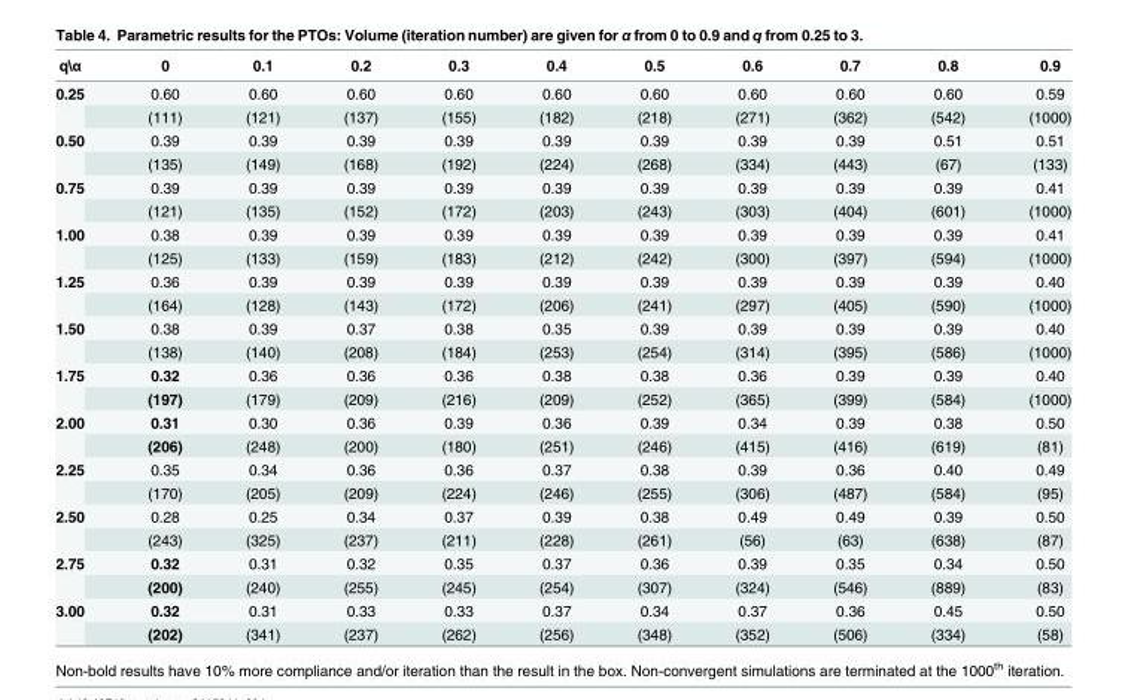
<table><thead><tr><td>q\\u03b1</td><td>0</td><td>0.1</td><td>0.2</td><td>0.3</td><td>0.4</td><td>0.5</td><td>0.6</td><td>0.7</td><td>0.8</td><td>0.9</td></tr></thead><tbody><tr><td rowspan="2">0.25</td><td>0.60</td><td>0.60</td><td>0.60</td><td>0.60</td><td>0.60</td><td>0.60</td><td>0.60</td><td>0.60</td><td>0.60</td><td>0.59</td></tr><tr><td>(111)</td><td>(121)</td><td>(137)</td><td>(155)</td><td>(182)</td><td>(218)</td><td>(271)</td><td>(362)</td><td>(542)</td><td>(1000)</td></tr><tr><td rowspan="2">0.50</td><td>0.39</td><td>0.39</td><td>0.39</td><td>0.39</td><td>0.39</td><td>0.39</td><td>0.39</td><td>0.39</td><td>0.51</td><td>0.51</td></tr><tr><td>(135)</td><td>(149)</td><td>(168)</td><td>(192)</td><td>(224)</td><td>(268)</td><td>(334)</td><td>(443)</td><td>(67)</td><td>(133)</td></tr><tr><td rowspan="2">0.75</td><td>0.39</td><td>0.39</td><td>0.39</td><td>0.39</td><td>0.39</td><td>0.39</td><td>0.39</td><td>0.39</td><td>0.39</td><td>0.41</td></tr><tr><td>(121)</td><td>(135)</td><td>(152)</td><td>(172)</td><td>(203)</td><td>(243)</td><td>(303)</td><td>(404)</td><td>(601)</td><td>(1000)</td></tr><tr><td rowspan="2">1.00</td><td>0.38</td><td>0.39</td><td>0.39</td><td>0.39</td><td>0.39</td><td>0.39</td><td>0.39</td><td>0.39</td><td>0.39</td><td>0.41</td></tr><tr><td>(125)</td><td>(133)</td><td>(159)</td><td>(183)</td><td>(212)</td><td>(242)</td><td>(300)</td><td>(397)</td><td>(594)</td><td>(1000)</td></tr><tr><td rowspan="2">1.25</td><td>0.36</td><td>0.39</td><td>0.39</td><td>0.39</td><td>0.39</td><td>0.39</td><td>0.39</td><td>0.39</td><td>0.39</td><td>0.40</td></tr><tr><td>(164)</td><td>(128)</td><td>(143)</td><td>(172)</td><td>(206)</td><td>(241)</td><td>(297)</td><td>(405)</td><td>(590)</td><td>(1000)</td></tr><tr><td rowspan="2">1.50</td><td>0.38</td><td>0.39</td><td>0.37</td><td>0.38</td><td>0.35</td><td>0.39</td><td>0.39</td><td>0.39</td><td>0.39</td><td>0.40</td></tr><tr><td>(138)</td><td>(140)</td><td>(208)</td><td>(184)</td><td>(253)</td><td>(254)</td><td>(314)</td><td>(395)</td><td>(586)</td><td>(1000)</td></tr><tr><td rowspan="2">1.75</td><td>0.32</td><td>0.36</td><td>0.36</td><td>0.36</td><td>0.38</td><td>0.38</td><td>0.36</td><td>0.39</td><td>0.39</td><td>0.40</td></tr><tr><td>(197)</td><td>(179)</td><td>(209)</td><td>(216)</td><td>(209)</td><td>(252)</td><td>(365)</td><td>(399)</td><td>(584)</td><td>(1000)</td></tr><tr><td rowspan="2">2.00</td><td>0.31</td><td>0.30</td><td>0.36</td><td>0.39</td><td>0.36</td><td>0.39</td><td>0.34</td><td>0.39</td><td>0.38</td><td>0.50</td></tr><tr><td>(206)</td><td>(248)</td><td>(200)</td><td>(180)</td><td>(251)</td><td>(246)</td><td>(415)</td><td>(416)</td><td>(619)</td><td>(81)</td></tr><tr><td rowspan="2">2.25</td><td>0.35</td><td>0.34</td><td>0.36</td><td>0.36</td><td>0.37</td><td>0.38</td><td>0.39</td><td>0.36</td><td>0.40</td><td>0.49</td></tr><tr><td>(170)</td><td>(205)</td><td>(209)</td><td>(224)</td><td>(246)</td><td>(255)</td><td>(306)</td><td>(487)</td><td>(584)</td><td>(95)</td></tr><tr><td rowspan="2">2.50</td><td>0.28</td><td>0.25</td><td>0.34</td><td>0.37</td><td>0.39</td><td>0.38</td><td>0.49</td><td>0.49</td><td>0.39</td><td>0.50</td></tr><tr><td>(243)</td><td>(325)</td><td>(237)</td><td>(211)</td><td>(228)</td><td>(261)</td><td>(56)</td><td>(63)</td><td>(638)</td><td>(87)</td></tr><tr><td rowspan="2">2.75</td><td>0.32</td><td>0.31</td><td>0.32</td><td>0.35</td><td>0.37</td><td>0.36</td><td>0.39</td><td>0.35</td><td>0.34</td><td>0.50</td></tr><tr><td>(200)</td><td>(240)</td><td>(255)</td><td>(245)</td><td>(254)</td><td>(307)</td><td>(324)</td><td>(546)</td><td>(889)</td><td>(83)</td></tr><tr><td rowspan="2">3.00</td><td>0.32</td><td>0.31</td><td>0.33</td><td>0.33</td><td>0.37</td><td>0.34</td><td>0.37</td><td>0.36</td><td>0.45</td><td>0.50</td></tr><tr><td>(202)</td><td>(341)</td><td>(237)</td><td>(262)</td><td>(256)</td><td>(348)</td><td>(352)</td><td>(506)</td><td>(334)</td><td>(58)</td></tr></tbody></table>